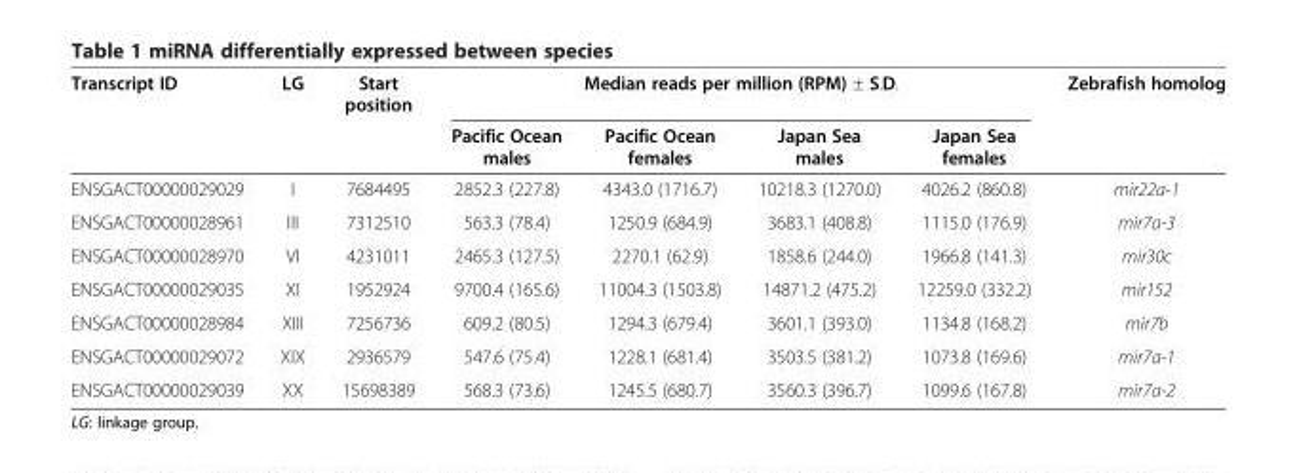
<table><thead><tr><td rowspan="2">Transcript ID</td><td rowspan="2">LG</td><td rowspan="2">Start position</td><td colspan="4">Median reads per million (RPM) ± S.D.</td><td rowspan="2">Zebrafish homolog</td></tr><tr><td>Pacific Ocean males</td><td>Pacific Ocean females</td><td>Japan Sea males</td><td>Japan Sea females</td></tr></thead><tbody><tr><td>ENSGACT00000029029</td><td>I</td><td>7684495</td><td>2852.3 (227.8)</td><td>4343.0 (1716.7)</td><td>10218.3 (1270.0)</td><td>4026.2 (860.8)</td><td>mir22a-1</td></tr><tr><td>ENSGACT00000028961</td><td>III</td><td>7312510</td><td>563.3 (78.4)</td><td>1250.9 (684.9)</td><td>3683.1 (408.8)</td><td>1115.0 (176.9)</td><td>mir7a-3</td></tr><tr><td>ENSGACT00000028970</td><td>VI</td><td>4231011</td><td>2465.3 (127.5)</td><td>2270.1 (62.9)</td><td>1858.6 (244.0)</td><td>1966.8 (141.3)</td><td>mir30c</td></tr><tr><td>ENSGACT00000029035</td><td>XI</td><td>1952924</td><td>9700.4 (165.6)</td><td>11004.3 (1503.8)</td><td>14871.2 (475.2)</td><td>12259.0 (332.2)</td><td>mir152</td></tr><tr><td>ENSGACT00000028984</td><td>XIII</td><td>7256736</td><td>609.2 (80.5)</td><td>1294.3 (679.4)</td><td>3601.1 (393.0)</td><td>1134.8 (168.2)</td><td>mir7b</td></tr><tr><td>ENSGACT00000029072</td><td>XIX</td><td>2936579</td><td>547.6 (75.4)</td><td>1228.1 (681.4)</td><td>3503.5 (381.2)</td><td>1073.8 (169.6)</td><td>mir7a-1</td></tr><tr><td>ENSGACT00000029039</td><td>XX</td><td>15698389</td><td>568.3 (73.6)</td><td>1245.5 (680.7)</td><td>3560.3 (396.7)</td><td>1099.6 (167.8)</td><td>mir7a-2</td></tr></tbody></table>